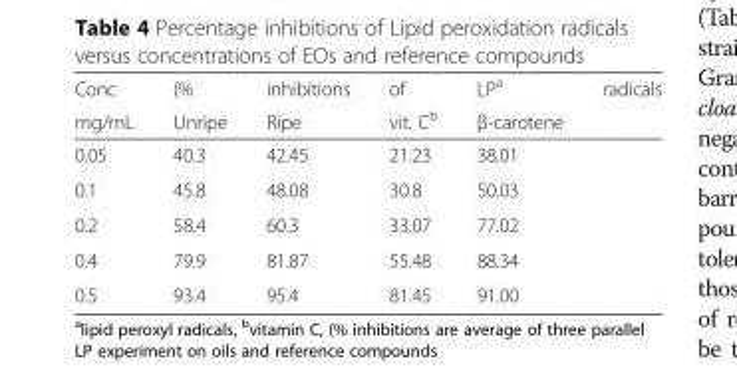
<table><thead><tr><td rowspan="2">Conc mg/mL</td><td rowspan="2">(% Unripe</td><td rowspan="2">inhibitions Ripe</td><td rowspan="2">of vit. C<sup>b</sup></td><td rowspan="2">LP<sup>a</sup> β-carotene</td><td rowspan="2">radicals</td></tr><tr></tr></thead><tbody><tr><td>0.05</td><td>40.3</td><td>42.45</td><td>21.23</td><td>38.01</td><td></td></tr><tr><td>0.1</td><td>45.8</td><td>48.08</td><td>30.8</td><td>50.03</td><td></td></tr><tr><td>0.2</td><td>58.4</td><td>60.3</td><td>33.07</td><td>77.02</td><td></td></tr><tr><td>0.4</td><td>79.9</td><td>81.87</td><td>55.48</td><td>88.34</td><td></td></tr><tr><td>0.5</td><td>93.4</td><td>95.4</td><td>81.45</td><td>91.00</td><td></td></tr></tbody></table>